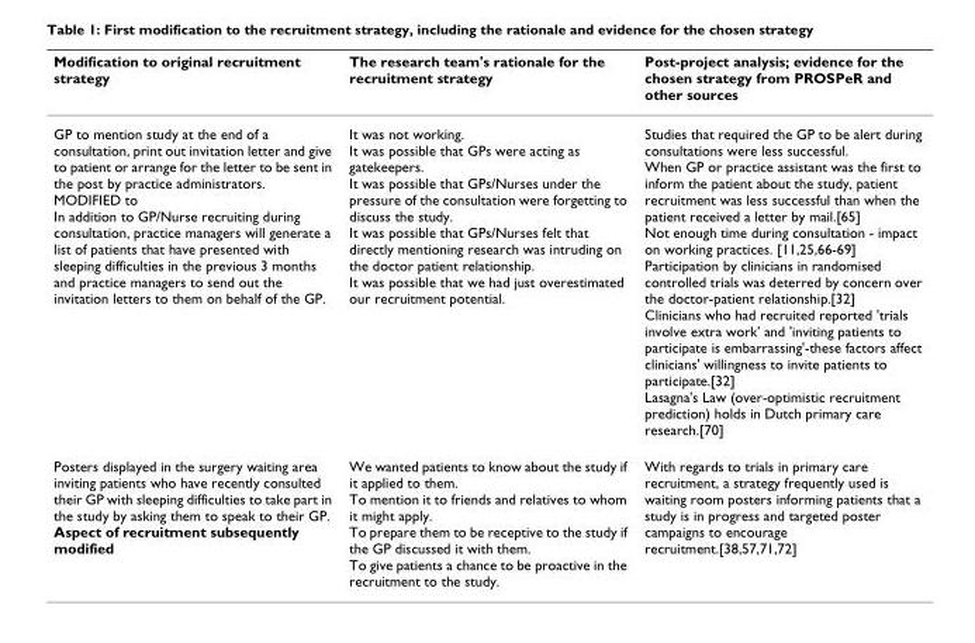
<table><thead><tr><td>Modification to original recruitment strategy</td><td>The research team&#x27;s rationale for the recruitment strategy</td><td>Post-project analysis; evidence for the chosen strategy from PROSPeR and other sources</td></tr></thead><tbody><tr><td>GP to mention study at the end of a consultation, print out invitation letter and give to patient or arrange for the letter to be sent in the post by practice administrators. MODIFIED to In addition to GP/Nurse recruiting during consultation, practice managers will generate a list of patients that have presented with sleeping difficulties in the previous 3 months and practice managers to send out the invitation letters to them on behalf of the GP.</td><td>It was not working. It was possible that GPs were acting as gatekeepers. It was possible that GPs/Nurses under the pressure of the consultation were forgetting to discuss the study. It was possible that GPs/Nurses felt that directly mentioning research was intruding on the doctor patient relationship. It was possible that we had just overestimated our recruitment potential.</td><td>Studies that required the GP to be alert during consultations were less successful. When GP or practice assistant was the first to inform the patient about the study, patient recruitment was less successful than when the patient received a letter by mail.[65] Not enough time during consultation - impact on working practices. [11,25,66-69] Participation by clinicians in randomised controlled trials was deterred by concern over the doctor-patient relationship.[32] Clinicians who had recruited reported &#x27;trials involve extra work&#x27; and &#x27;inviting patients to participate is embarrassing&#x27;-these factors affect clinicians&#x27; willingness to invite patients to participate.[32] Lasagna&#x27;s Law (over-optimistic recruitment prediction) holds in Dutch primary care research.[70]</td></tr><tr><td>Posters displayed in the surgery waiting area inviting patients who have recently consulted their GP with sleeping difficulties to take part in the study by asking them to speak to their GP. Aspect of recruitment subsequently modified</td><td>We wanted patients to know about the study if it applied to them. To mention it to friends and relatives to whom it might apply. To prepare them to be receptive to the study if the GP discussed it with them. To give patients a chance to be proactive in the recruitment to the study.</td><td>With regards to trials in primary care recruitment, a strategy frequently used is waiting room posters informing patients that a study is in progress and targeted poster campaigns to encourage recruitment.[38,57,71,72]</td></tr></tbody></table>